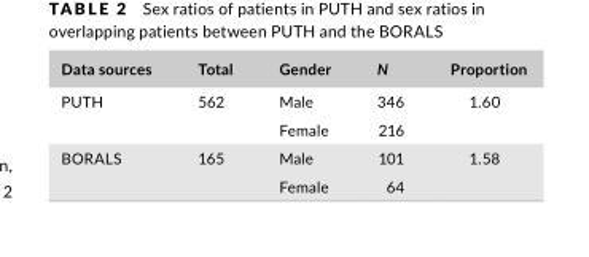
<table><thead><tr><td>Data sources</td><td>Total</td><td>Gender</td><td>N</td><td>Proportion</td></tr></thead><tbody><tr><td rowspan="2">PUTH</td><td rowspan="2">562</td><td>Male</td><td>346</td><td rowspan="2">1.60</td></tr><tr><td>Female</td><td>216</td></tr><tr><td rowspan="2">BORALS</td><td rowspan="2">165</td><td>Male</td><td>101</td><td rowspan="2">1.58</td></tr><tr><td>Female</td><td>64</td></tr></tbody></table>